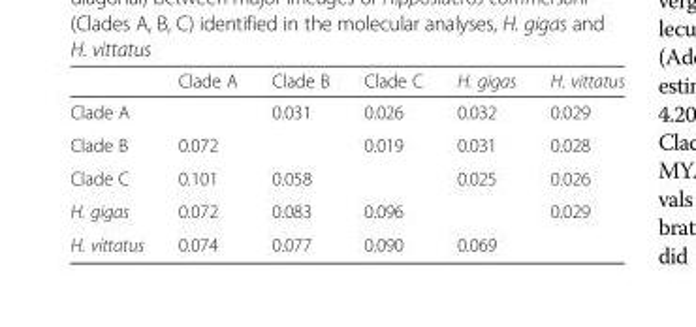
<table><thead><tr><td></td><td>Clade A</td><td>Clade B</td><td>Clade C</td><td>H. gigas</td><td>H. vittatus</td></tr></thead><tbody><tr><td>Clade A</td><td></td><td>0.031</td><td>0.026</td><td>0.032</td><td>0.029</td></tr><tr><td>Clade B</td><td>0.072</td><td></td><td>0.019</td><td>0.031</td><td>0.028</td></tr><tr><td>Clade C</td><td>0.101</td><td>0.058</td><td></td><td>0.025</td><td>0.026</td></tr><tr><td>H. gigas</td><td>0.072</td><td>0.083</td><td>0.096</td><td></td><td>0.029</td></tr><tr><td>H. vittatus</td><td>0.074</td><td>0.077</td><td>0.090</td><td>0.069</td><td></td></tr></tbody></table>